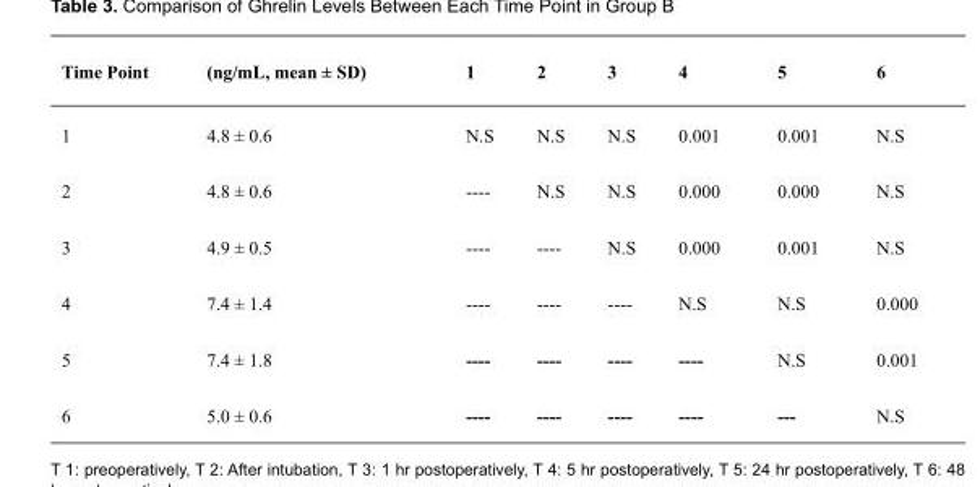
<table><thead><tr><td>Time Point</td><td>(ng/mL, mean ± SD)</td><td>1</td><td>2</td><td>3</td><td>4</td><td>5</td><td>6</td></tr></thead><tbody><tr><td>1</td><td>4.8 ± 0.6</td><td>N.S</td><td>N.S</td><td>N.S</td><td>0.001</td><td>0.001</td><td>N.S</td></tr><tr><td>2</td><td>4.8 ± 0.6</td><td>----</td><td>N.S</td><td>N.S</td><td>0.000</td><td>0.000</td><td>N.S</td></tr><tr><td>3</td><td>4.9 ± 0.5</td><td>----</td><td>----</td><td>N.S</td><td>0.000</td><td>0.001</td><td>N.S</td></tr><tr><td>4</td><td>7.4 ± 1.4</td><td>----</td><td>----</td><td>----</td><td>N.S</td><td>N.S</td><td>0.000</td></tr><tr><td>5</td><td>7.4 ± 1.8</td><td>----</td><td>----</td><td>----</td><td>----</td><td>N.S</td><td>0.001</td></tr><tr><td>6</td><td>5.0 ± 0.6</td><td>----</td><td>----</td><td>----</td><td>----</td><td>---</td><td>N.S</td></tr></tbody></table>